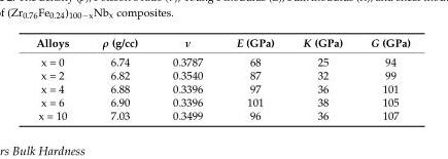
<table><thead><tr><td>Alloys</td><td>ρ (g/cc)</td><td>ν</td><td>E (GPa)</td><td>K (GPa)</td><td>G (GPa)</td></tr></thead><tbody><tr><td>x = 0</td><td>6.74</td><td>0.3787</td><td>68</td><td>25</td><td>94</td></tr><tr><td>x = 2</td><td>6.82</td><td>0.3540</td><td>87</td><td>32</td><td>99</td></tr><tr><td>x = 4</td><td>6.88</td><td>0.3396</td><td>97</td><td>36</td><td>101</td></tr><tr><td>x = 6</td><td>6.90</td><td>0.3396</td><td>101</td><td>38</td><td>105</td></tr><tr><td>x = 10</td><td>7.03</td><td>0.3499</td><td>96</td><td>36</td><td>107</td></tr></tbody></table>